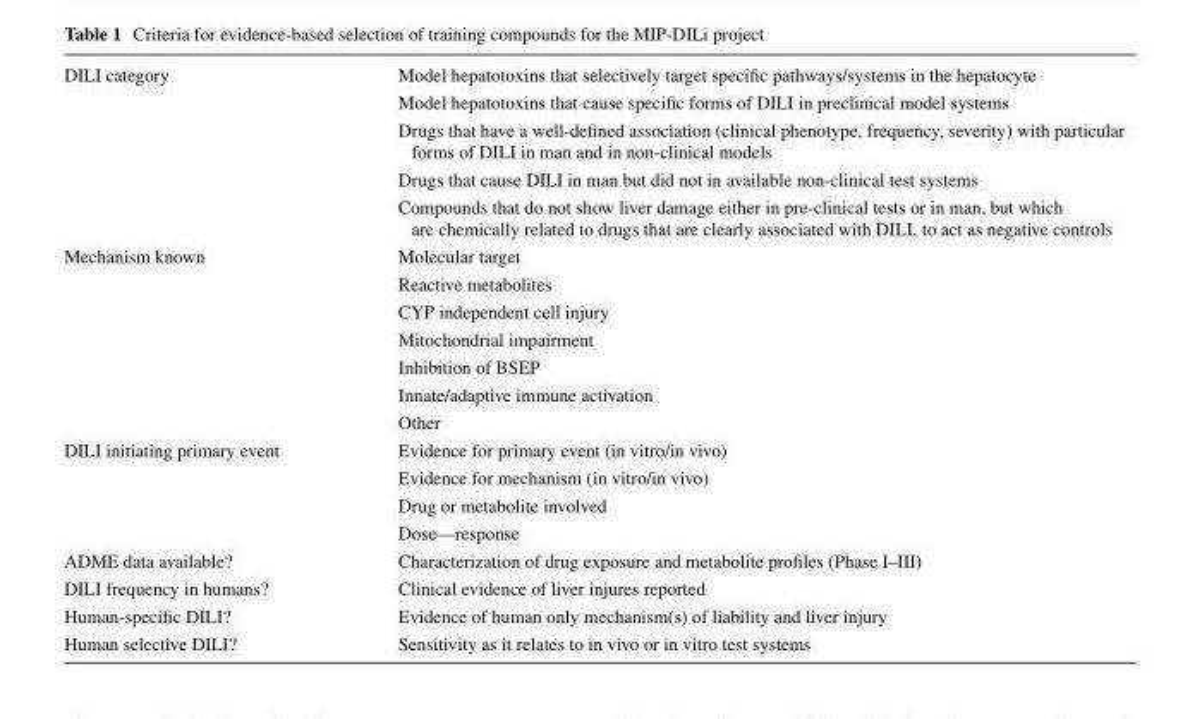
<table><tbody><tr><td rowspan="5">DILI category</td><td>Model hepatotoxins that selectively target specific pathways/systems in the hepatocyte</td></tr><tr><td>Model hepatotoxins that cause specific forms of DILI in preclinical model systems</td></tr><tr><td>Drugs that have a well-defined association (clinical phenotype, frequency, severity) with particular forms of DILI in man and in non-clinical models</td></tr><tr><td>Drugs that cause DILI in man but did not in available non-clinical test systems</td></tr><tr><td>Compounds that do not show liver damage either in pre-clinical tests or in man, but which are chemically related to drugs that are clearly associated with DILI, to act as negative controls</td></tr><tr><td rowspan="7">Mechanism known</td><td>Molecular target</td></tr><tr><td>Reactive metabolites</td></tr><tr><td>CYP independent cell injury</td></tr><tr><td>Mitochondrial impairment</td></tr><tr><td>Inhibition of BSEP</td></tr><tr><td>Innate/adaptive immune activation</td></tr><tr><td>Other</td></tr><tr><td rowspan="4">DILI initiating primary event</td><td>Evidence for primary event (in vitro/in vivo)</td></tr><tr><td>Evidence for mechanism (in vitro/in vivo)</td></tr><tr><td>Drug or metabolite involved</td></tr><tr><td>Dose—response</td></tr><tr><td>ADME data available?</td><td>Characterization of drug exposure and metabolite profiles (Phase I–III)</td></tr><tr><td>DILI frequency in humans?</td><td>Clinical evidence of liver injures reported</td></tr><tr><td>Human-specific DILI?</td><td>Evidence of human only mechanism(s) of liability and liver injury</td></tr><tr><td>Human selective DILI?</td><td>Sensitivity as it relates to in vivo or in vitro test systems</td></tr></tbody></table>